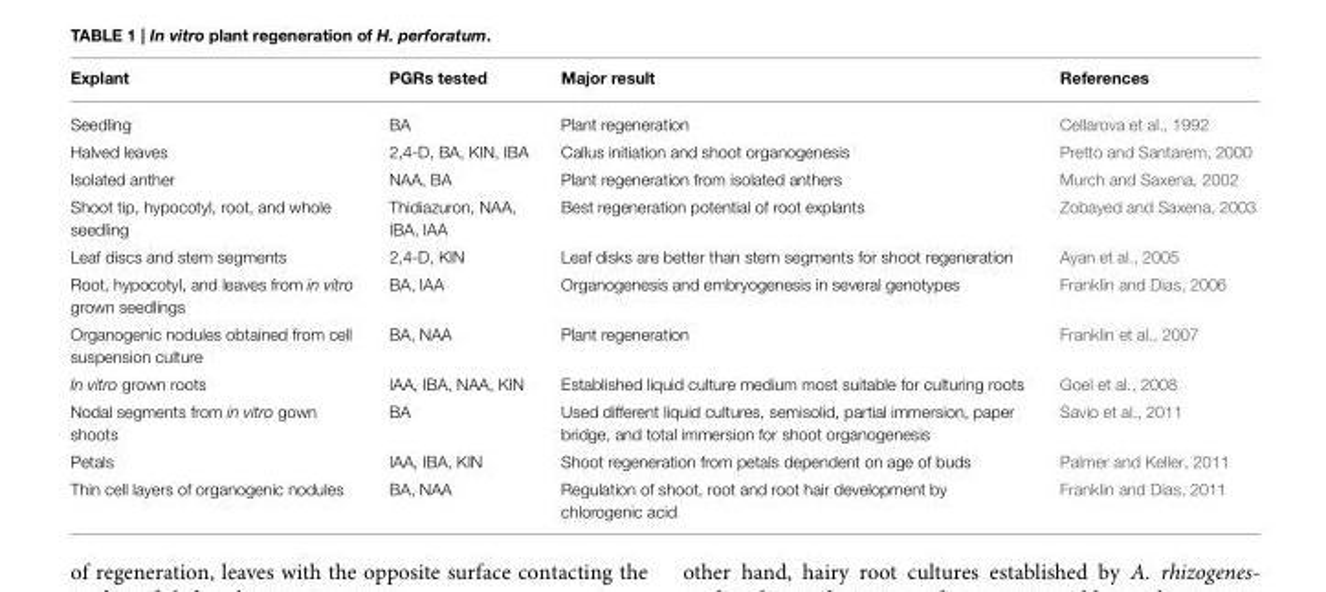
<table><thead><tr><td>Explant</td><td>PGRs tested</td><td>Major result</td><td>References</td></tr></thead><tbody><tr><td>Seedling</td><td>BA</td><td>Plant regeneration</td><td>Cellarova et al., 1992</td></tr><tr><td>Halved leaves</td><td>2,4-D, BA, KIN, IBA</td><td>Callus initiation and shoot organogenesis</td><td>Pretto and Santarem, 2000</td></tr><tr><td>Isolated anther</td><td>NAA, BA</td><td>Plant regeneration from isolated anthers</td><td>Murch and Saxena, 2002</td></tr><tr><td>Shoot tip, hypocotyl, root, and whole seedling</td><td>Thidiazuron, NAA, IBA, IAA</td><td>Best regeneration potential of root explants</td><td>Zobayed and Saxena, 2003</td></tr><tr><td>Leaf discs and stem segments</td><td>2,4-D, KIN</td><td>Leaf disks are better than stem segments for shoot regeneration</td><td>Ayan et al., 2005</td></tr><tr><td>Root, hypocotyl, and leaves from in vitro grown seedlings</td><td>BA, IAA</td><td>Organogenesis and embryogenesis in several genotypes</td><td>Franklin and Dias, 2006</td></tr><tr><td>Organogenic nodules obtained from cell suspension culture</td><td>BA, NAA</td><td>Plant regeneration</td><td>Franklin et al., 2007</td></tr><tr><td>In vitro grown roots</td><td>IAA, IBA, NAA, KIN</td><td>Established liquid culture medium most suitable for culturing roots</td><td>Goel et al., 2008</td></tr><tr><td>Nodal segments from in vitro gown shoots</td><td>BA</td><td>Used different liquid cultures, semisolid, partial immersion, paper bridge, and total immersion for shoot organogenesis</td><td>Savio et al., 2011</td></tr><tr><td>Petals</td><td>IAA, IBA, KIN</td><td>Shoot regeneration from petals dependent on age of buds</td><td>Palmer and Keller, 2011</td></tr><tr><td>Thin cell layers of organogenic nodules</td><td>BA, NAA</td><td>Regulation of shoot, root and root hair development by chlorogenic acid</td><td>Franklin and Dias, 2011</td></tr></tbody></table>